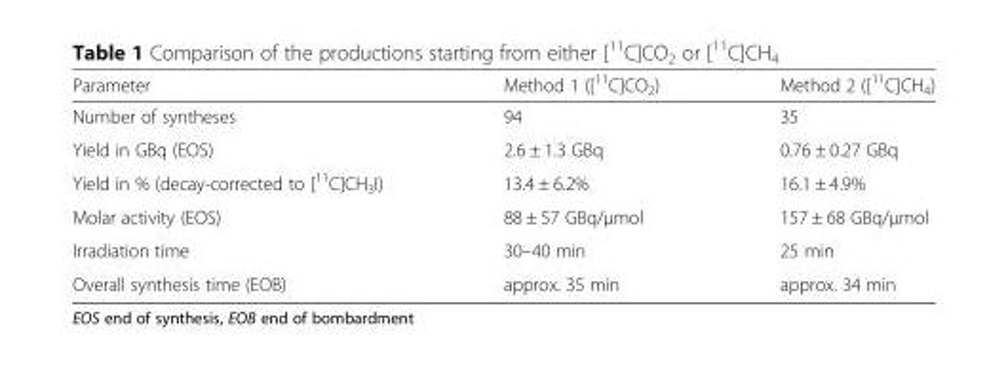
<table><thead><tr><td>Parameter</td><td>Method 1 ([<sup>11</sup>C]CO<sub>2</sub>)</td><td>Method 2 ([<sup>11</sup>C]CH<sub>4</sub>)</td></tr></thead><tbody><tr><td>Number of syntheses</td><td>94</td><td>35</td></tr><tr><td>Yield in GBq (EOS)</td><td>2.6 ± 1.3 GBq</td><td>0.76 ± 0.27 GBq</td></tr><tr><td>Yield in % (decay-corrected to [<sup>11</sup>C]CH<sub>3</sub>I)</td><td>13.4 ± 6.2%</td><td>16.1 ± 4.9%</td></tr><tr><td>Molar activity (EOS)</td><td>88 ± 57 GBq/μmol</td><td>157 ± 68 GBq/μmol</td></tr><tr><td>Irradiation time</td><td>30–40 min</td><td>25 min</td></tr><tr><td>Overall synthesis time (EOB)</td><td>approx. 35 min</td><td>approx. 34 min</td></tr></tbody></table>